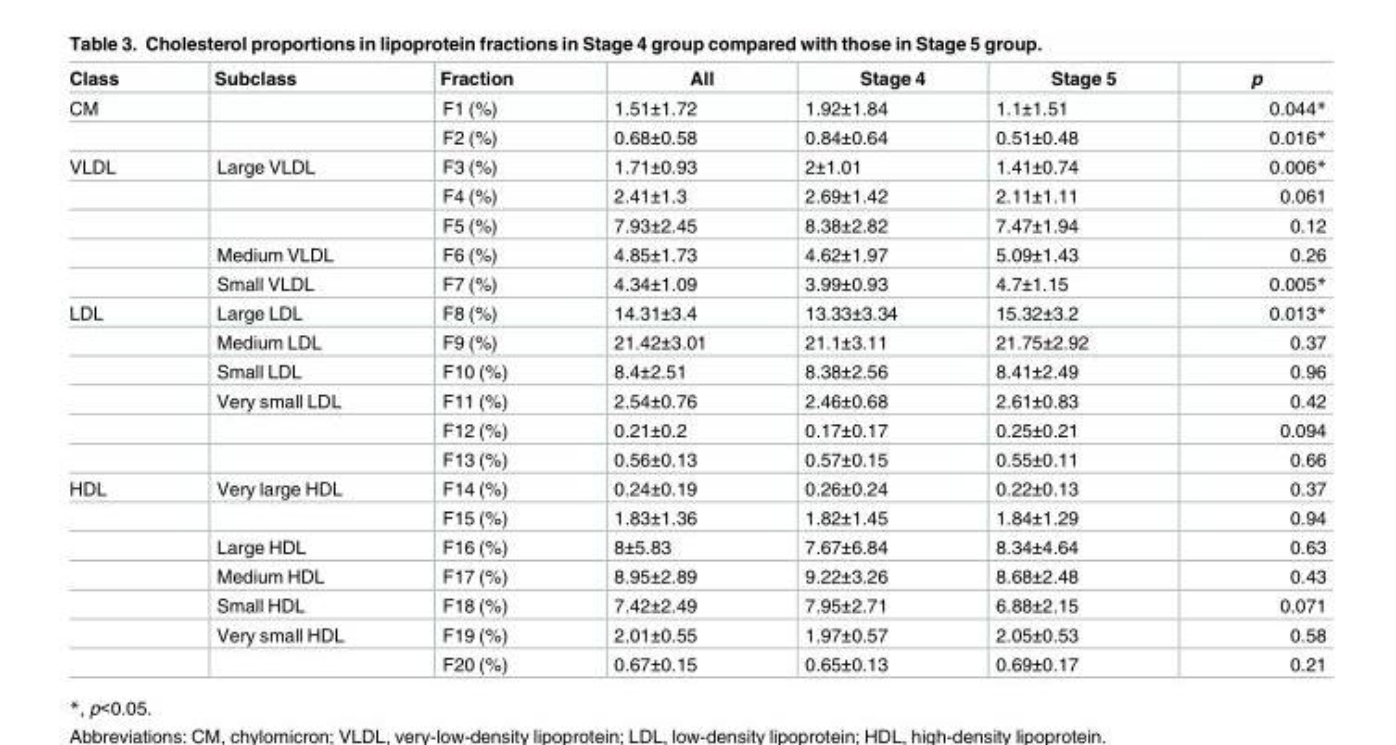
<table><thead><tr><td>Class</td><td>Subclass</td><td>Fraction</td><td>All</td><td>Stage 4</td><td>Stage 5</td><td>p</td></tr></thead><tbody><tr><td rowspan="2">CM</td><td></td><td>F1 (%)</td><td>1.51±1.72</td><td>1.92±1.84</td><td>1.1±1.51</td><td>0.044*</td></tr><tr><td></td><td>F2 (%)</td><td>0.68±0.58</td><td>0.84±0.64</td><td>0.51±0.48</td><td>0.016*</td></tr><tr><td rowspan="5">VLDL</td><td>Large VLDL</td><td>F3 (%)</td><td>1.71±0.93</td><td>2±1.01</td><td>1.41±0.74</td><td>0.006*</td></tr><tr><td></td><td>F4 (%)</td><td>2.41±1.3</td><td>2.69±1.42</td><td>2.11±1.11</td><td>0.061</td></tr><tr><td></td><td>F5 (%)</td><td>7.93±2.45</td><td>8.38±2.82</td><td>7.47±1.94</td><td>0.12</td></tr><tr><td>Medium VLDL</td><td>F6 (%)</td><td>4.85±1.73</td><td>4.62±1.97</td><td>5.09±1.43</td><td>0.26</td></tr><tr><td>Small VLDL</td><td>F7 (%)</td><td>4.34±1.09</td><td>3.99±0.93</td><td>4.7±1.15</td><td>0.005*</td></tr><tr><td rowspan="6">LDL</td><td>Large LDL</td><td>F8 (%)</td><td>14.31±3.4</td><td>13.33±3.34</td><td>15.32±3.2</td><td>0.013*</td></tr><tr><td>Medium LDL</td><td>F9 (%)</td><td>21.42±3.01</td><td>21.1±3.11</td><td>21.75±2.92</td><td>0.37</td></tr><tr><td>Small LDL</td><td>F10 (%)</td><td>8.4±2.51</td><td>8.38±2.56</td><td>8.41±2.49</td><td>0.96</td></tr><tr><td>Very small LDL</td><td>F11 (%)</td><td>2.54±0.76</td><td>2.46±0.68</td><td>2.61±0.83</td><td>0.42</td></tr><tr><td></td><td>F12 (%)</td><td>0.21±0.2</td><td>0.17±0.17</td><td>0.25±0.21</td><td>0.094</td></tr><tr><td></td><td>F13 (%)</td><td>0.56±0.13</td><td>0.57±0.15</td><td>0.55±0.11</td><td>0.66</td></tr><tr><td rowspan="7">HDL</td><td>Very large HDL</td><td>F14 (%)</td><td>0.24±0.19</td><td>0.26±0.24</td><td>0.22±0.13</td><td>0.37</td></tr><tr><td></td><td>F15 (%)</td><td>1.83±1.36</td><td>1.82±1.45</td><td>1.84±1.29</td><td>0.94</td></tr><tr><td>Large HDL</td><td>F16 (%)</td><td>8±5.83</td><td>7.67±6.84</td><td>8.34±4.64</td><td>0.63</td></tr><tr><td>Medium HDL</td><td>F17 (%)</td><td>8.95±2.89</td><td>9.22±3.26</td><td>8.68±2.48</td><td>0.43</td></tr><tr><td>Small HDL</td><td>F18 (%)</td><td>7.42±2.49</td><td>7.95±2.71</td><td>6.88±2.15</td><td>0.071</td></tr><tr><td>Very small HDL</td><td>F19 (%)</td><td>2.01±0.55</td><td>1.97±0.57</td><td>2.05±0.53</td><td>0.58</td></tr><tr><td></td><td>F20 (%)</td><td>0.67±0.15</td><td>0.65±0.13</td><td>0.69±0.17</td><td>0.21</td></tr></tbody></table>